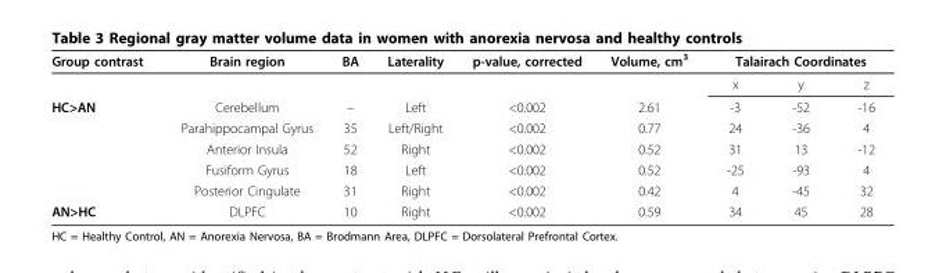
<table><thead><tr><td rowspan="2">Group contrast</td><td rowspan="2">Brain region</td><td rowspan="2">BA</td><td rowspan="2">Laterality</td><td rowspan="2">p-value, corrected</td><td rowspan="2">Volume, cm<sup>3</sup></td><td colspan="3">Talairach Coordinates</td></tr><tr><td>x</td><td>y</td><td>z</td></tr></thead><tbody><tr><td rowspan="5">HC&gt;AN</td><td>Cerebellum</td><td>–</td><td>Left</td><td>&lt;0.002</td><td>2.61</td><td>-3</td><td>-52</td><td>-16</td></tr><tr><td>Parahippocampal Gyrus</td><td>35</td><td>Left/Right</td><td>&lt;0.002</td><td>0.77</td><td>24</td><td>-36</td><td>4</td></tr><tr><td>Anterior Insula</td><td>52</td><td>Right</td><td>&lt;0.002</td><td>0.52</td><td>31</td><td>13</td><td>-12</td></tr><tr><td>Fusiform Gyrus</td><td>18</td><td>Left</td><td>&lt;0.002</td><td>0.52</td><td>-25</td><td>-93</td><td>4</td></tr><tr><td>Posterior Cingulate</td><td>31</td><td>Right</td><td>&lt;0.002</td><td>0.42</td><td>4</td><td>-45</td><td>32</td></tr><tr><td>AN&gt;HC</td><td>DLPFC</td><td>10</td><td>Right</td><td>&lt;0.002</td><td>0.59</td><td>34</td><td>45</td><td>28</td></tr></tbody></table>